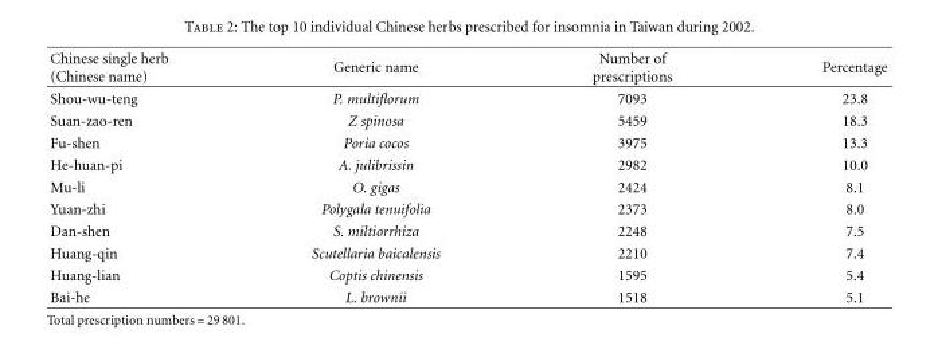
<table><thead><tr><td>Chinese single herb (Chinese name)</td><td>Generic name</td><td>Number of prescriptions</td><td>Percentage</td></tr></thead><tbody><tr><td>Shou-wu-teng</td><td>P. multiflorum</td><td>7093</td><td>23.8</td></tr><tr><td>Suan-zao-ren</td><td>Z spinosa</td><td>5459</td><td>18.3</td></tr><tr><td>Fu-shen</td><td>Poria cocos</td><td>3975</td><td>13.3</td></tr><tr><td>He-huan-pi</td><td>A. julibrissin</td><td>2982</td><td>10.0</td></tr><tr><td>Mu-li</td><td>O. gigas</td><td>2424</td><td>8.1</td></tr><tr><td>Yuan-zhi</td><td>Polygala tenuifolia</td><td>2373</td><td>8.0</td></tr><tr><td>Dan-shen</td><td>S. miltiorrhiza</td><td>2248</td><td>7.5</td></tr><tr><td>Huang-qin</td><td>Scutellaria baicalensis</td><td>2210</td><td>7.4</td></tr><tr><td>Huang-lian</td><td>Coptis chinensis</td><td>1595</td><td>5.4</td></tr><tr><td>Bai-he</td><td>L. brownii</td><td>1518</td><td>5.1</td></tr></tbody></table>